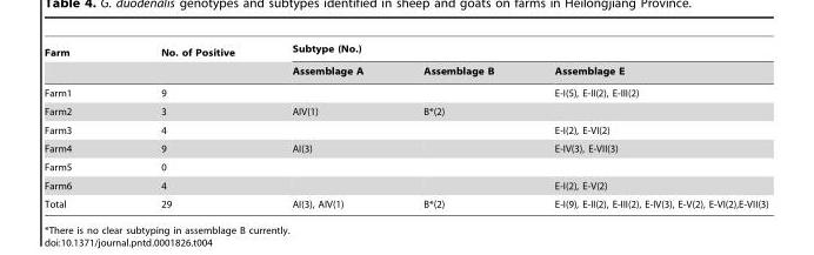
<table><thead><tr><td rowspan="2">Farm</td><td rowspan="2">No. of Positive</td><td colspan="3">Subtype (No.)</td></tr><tr><td>Assemblage A</td><td>Assemblage B</td><td>Assemblage E</td></tr></thead><tbody><tr><td>Farm1</td><td>9</td><td></td><td></td><td>E-I(5), E-II(2), E-III(2)</td></tr><tr><td>Farm2</td><td>3</td><td>AIV(1)</td><td>B*(2)</td><td></td></tr><tr><td>Farm3</td><td>4</td><td></td><td></td><td>E-I(2), E-VI(2)</td></tr><tr><td>Farm4</td><td>9</td><td>AI(3)</td><td></td><td>E-IV(3), E-VII(3)</td></tr><tr><td>Farm5</td><td>0</td><td></td><td></td><td></td></tr><tr><td>Farm6</td><td>4</td><td></td><td></td><td>E-I(2), E-V(2)</td></tr><tr><td>Total</td><td>29</td><td>AI(3), AIV(1)</td><td>B*(2)</td><td>E-I(9), E-II(2), E-III(2), E-IV(3), E-V(2), E-VI(2),E-VII(3)</td></tr></tbody></table>